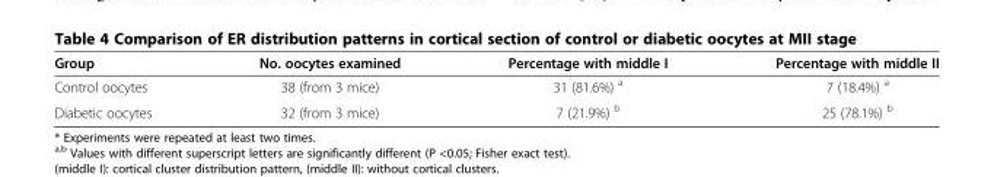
<table><thead><tr><td>Group</td><td>No. oocytes examined</td><td>Percentage with middle I</td><td>Percentage with middle II</td></tr></thead><tbody><tr><td>Control oocytes</td><td>38 (from 3 mice)</td><td>31 (81.6%) <sup>a</sup></td><td>7 (18.4%) <sup>a</sup></td></tr><tr><td>Diabetic oocytes</td><td>32 (from 3 mice)</td><td>7 (21.9%) <sup>b</sup></td><td>25 (78.1%) <sup>b</sup></td></tr></tbody></table>